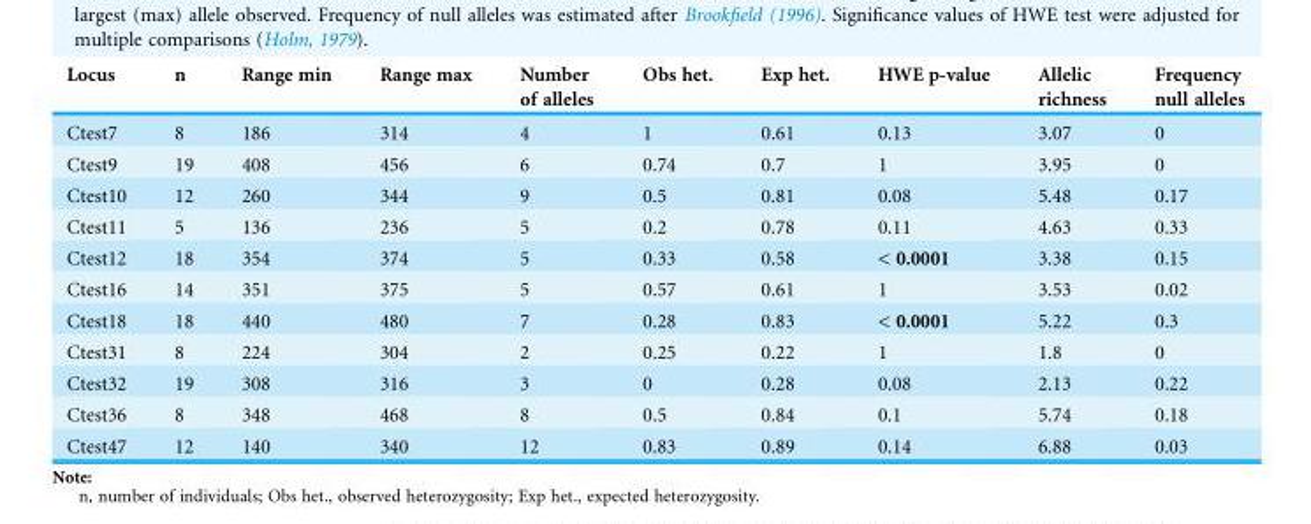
<table><thead><tr><td>Locus</td><td>n</td><td>Range min</td><td>Range max</td><td>Number of alleles</td><td>Obs het.</td><td>Exp het.</td><td>HWE p-value</td><td>Allelic richness</td><td>Frequency null alleles</td></tr></thead><tbody><tr><td>Ctest7</td><td>8</td><td>186</td><td>314</td><td>4</td><td>1</td><td>0.61</td><td>0.13</td><td>3.07</td><td>0</td></tr><tr><td>Ctest9</td><td>19</td><td>408</td><td>456</td><td>6</td><td>0.74</td><td>0.7</td><td>1</td><td>3.95</td><td>0</td></tr><tr><td>Ctest10</td><td>12</td><td>260</td><td>344</td><td>9</td><td>0.5</td><td>0.81</td><td>0.08</td><td>5.48</td><td>0.17</td></tr><tr><td>Ctest11</td><td>5</td><td>136</td><td>236</td><td>5</td><td>0.2</td><td>0.78</td><td>0.11</td><td>4.63</td><td>0.33</td></tr><tr><td>Ctest12</td><td>18</td><td>354</td><td>374</td><td>5</td><td>0.33</td><td>0.58</td><td>&lt; 0.0001</td><td>3.38</td><td>0.15</td></tr><tr><td>Ctest16</td><td>14</td><td>351</td><td>375</td><td>5</td><td>0.57</td><td>0.61</td><td>1</td><td>3.53</td><td>0.02</td></tr><tr><td>Ctest18</td><td>18</td><td>440</td><td>480</td><td>7</td><td>0.28</td><td>0.83</td><td>&lt; 0.0001</td><td>5.22</td><td>0.3</td></tr><tr><td>Ctest31</td><td>8</td><td>224</td><td>304</td><td>2</td><td>0.25</td><td>0.22</td><td>1</td><td>1.8</td><td>0</td></tr><tr><td>Ctest32</td><td>19</td><td>308</td><td>316</td><td>3</td><td>0</td><td>0.28</td><td>0.08</td><td>2.13</td><td>0.22</td></tr><tr><td>Ctest36</td><td>8</td><td>348</td><td>468</td><td>8</td><td>0.5</td><td>0.84</td><td>0.1</td><td>5.74</td><td>0.18</td></tr><tr><td>Ctest47</td><td>12</td><td>140</td><td>340</td><td>12</td><td>0.83</td><td>0.89</td><td>0.14</td><td>6.88</td><td>0.03</td></tr></tbody></table>